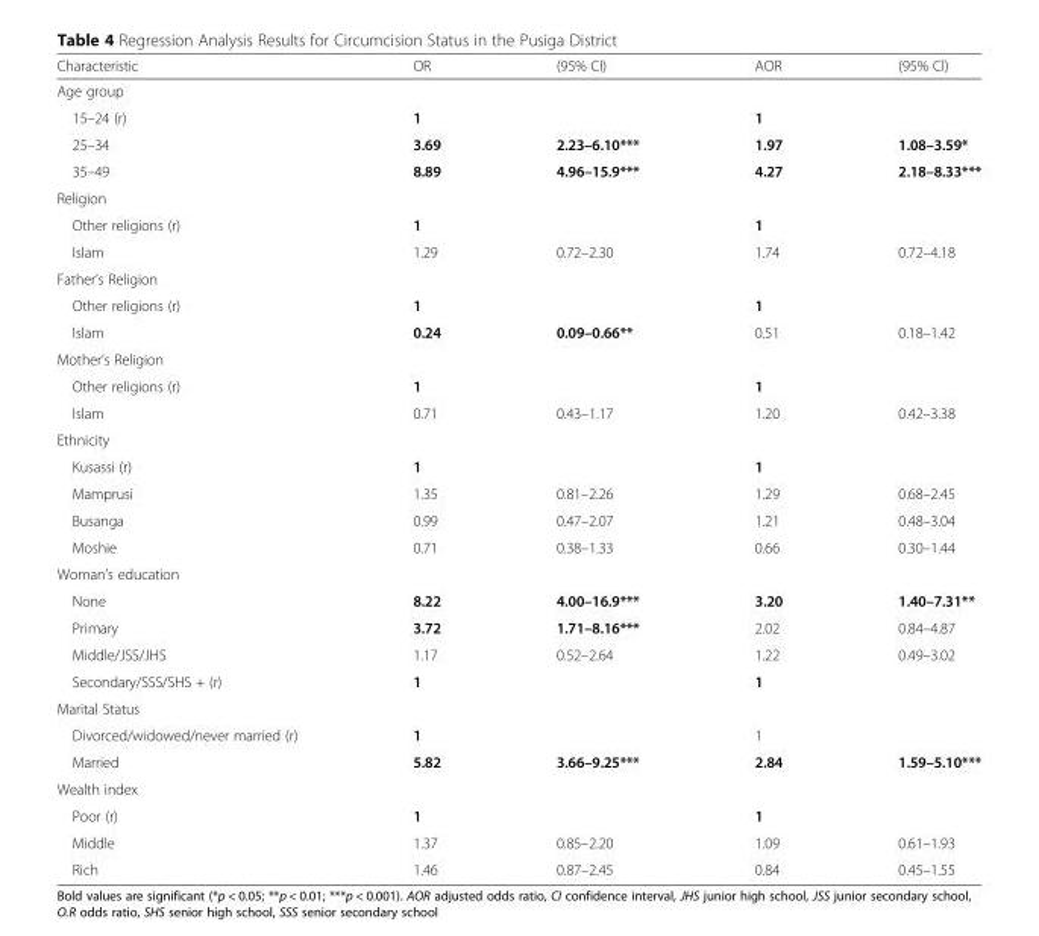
<table><thead><tr><td>Characteristic</td><td>OR</td><td>(95% CI)</td><td>AOR</td><td>(95% Cl)</td></tr></thead><tbody><tr><td colspan="5">Age group</td></tr><tr><td>15–24 (r)</td><td>1</td><td></td><td>1</td><td></td></tr><tr><td>25–34</td><td>3.69</td><td>2.23–6.10***</td><td>1.97</td><td>1.08–3.59*</td></tr><tr><td>35–49</td><td>8.89</td><td>4.96–15.9***</td><td>4.27</td><td>2.18–8.33***</td></tr><tr><td colspan="5">Religion</td></tr><tr><td>Other religions (r)</td><td>1</td><td></td><td>1</td><td></td></tr><tr><td>Islam</td><td>1.29</td><td>0.72–2.30</td><td>1.74</td><td>0.72–4.18</td></tr><tr><td colspan="5">Father’s Religion</td></tr><tr><td>Other religions (r)</td><td>1</td><td></td><td>1</td><td></td></tr><tr><td>Islam</td><td>0.24</td><td>0.09–0.66**</td><td>0.51</td><td>0.18–1.42</td></tr><tr><td colspan="5">Mother’s Religion</td></tr><tr><td>Other religions (r)</td><td>1</td><td></td><td>1</td><td></td></tr><tr><td>Islam</td><td>0.71</td><td>0.43–1.17</td><td>1.20</td><td>0.42–3.38</td></tr><tr><td colspan="5">Ethnicity</td></tr><tr><td>Kusassi (r)</td><td>1</td><td></td><td>1</td><td></td></tr><tr><td>Mamprusi</td><td>1.35</td><td>0.81–2.26</td><td>1.29</td><td>0.68–2.45</td></tr><tr><td>Busanga</td><td>0.99</td><td>0.47–2.07</td><td>1.21</td><td>0.48–3.04</td></tr><tr><td>Moshie</td><td>0.71</td><td>0.38–1.33</td><td>0.66</td><td>0.30–1.44</td></tr><tr><td colspan="5">Woman’s education</td></tr><tr><td>None</td><td>8.22</td><td>4.00–16.9***</td><td>3.20</td><td>1.40–7.31**</td></tr><tr><td>Primary</td><td>3.72</td><td>1.71–8.16***</td><td>2.02</td><td>0.84–4.87</td></tr><tr><td>Middle/JSS/JHS</td><td>1.17</td><td>0.52–2.64</td><td>1.22</td><td>0.49–3.02</td></tr><tr><td>Secondary/SSS/SHS + (r)</td><td>1</td><td></td><td>1</td><td></td></tr><tr><td colspan="5">Marital Status</td></tr><tr><td>Divorced/widowed/never married (r)</td><td>1</td><td></td><td>1</td><td></td></tr><tr><td>Married</td><td>5.82</td><td>3.66–9.25***</td><td>2.84</td><td>1.59–5.10***</td></tr><tr><td colspan="5">Wealth index</td></tr><tr><td>Poor (r)</td><td>1</td><td></td><td>1</td><td></td></tr><tr><td>Middle</td><td>1.37</td><td>0.85–2.20</td><td>1.09</td><td>0.61–1.93</td></tr><tr><td>Rich</td><td>1.46</td><td>0.87–2.45</td><td>0.84</td><td>0.45–1.55</td></tr></tbody></table>